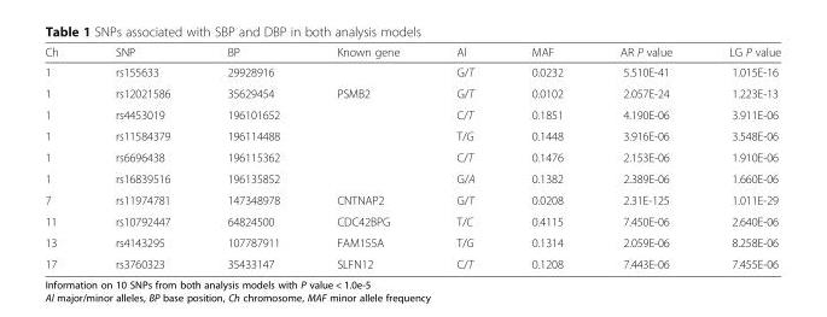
<table><thead><tr><td>Ch</td><td>SNP</td><td>BP</td><td>Known gene</td><td>Al</td><td>MAF</td><td>AR P value</td><td>LG P value</td></tr></thead><tbody><tr><td>1</td><td>rs155633</td><td>29928916</td><td></td><td>G/T</td><td>0.0232</td><td>5.510E-41</td><td>1.015E-16</td></tr><tr><td>1</td><td>rs12021586</td><td>35629454</td><td>PSMB2</td><td>G/T</td><td>0.0102</td><td>2.057E-24</td><td>1.223E-13</td></tr><tr><td>1</td><td>rs4453019</td><td>196101652</td><td></td><td>C/T</td><td>0.1851</td><td>4.190E-06</td><td>3.911E-06</td></tr><tr><td>1</td><td>rs11584379</td><td>196114488</td><td></td><td>T/G</td><td>0.1448</td><td>3.916E-06</td><td>3.548E-06</td></tr><tr><td>1</td><td>rs6696438</td><td>196115362</td><td></td><td>C/T</td><td>0.1476</td><td>2.153E-06</td><td>1.910E-06</td></tr><tr><td>1</td><td>rs16839516</td><td>196135852</td><td></td><td>G/A</td><td>0.1382</td><td>2.389E-06</td><td>1.660E-06</td></tr><tr><td>7</td><td>rs11974781</td><td>147348978</td><td>CNTNAP2</td><td>G/T</td><td>0.0208</td><td>2.31E-125</td><td>1.011E-29</td></tr><tr><td>11</td><td>rs10792447</td><td>64824500</td><td>CDC42BPG</td><td>T/C</td><td>0.4115</td><td>7.450E-06</td><td>2.640E-06</td></tr><tr><td>13</td><td>rs4143295</td><td>107787911</td><td>FAM155A</td><td>T/G</td><td>0.1314</td><td>2.059E-06</td><td>8.258E-06</td></tr><tr><td>17</td><td>rs3760323</td><td>35433147</td><td>SLFN12</td><td>C/T</td><td>0.1208</td><td>7.443E-06</td><td>7.455E-06</td></tr></tbody></table>